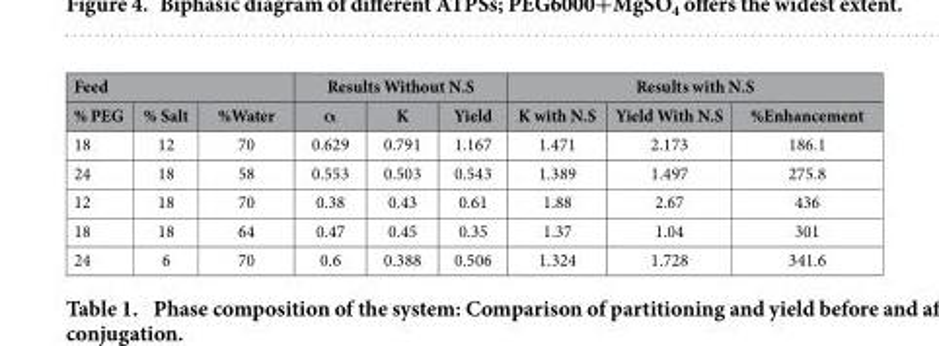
<table><thead><tr><td colspan="3">Feed</td><td colspan="3">Results Without N.S</td><td colspan="3">Results with N.S</td></tr><tr><td>% PEG</td><td>% Salt</td><td>%Water</td><td>α</td><td>K</td><td>Yield</td><td>K with N.S</td><td>Yield With N.S</td><td>%Enhancement</td></tr></thead><tbody><tr><td>18</td><td>12</td><td>70</td><td>0.629</td><td>0.791</td><td>1.167</td><td>1.471</td><td>2.173</td><td>186.1</td></tr><tr><td>24</td><td>18</td><td>58</td><td>0.553</td><td>0.503</td><td>0.543</td><td>1.389</td><td>1.497</td><td>275.8</td></tr><tr><td>12</td><td>18</td><td>70</td><td>0.38</td><td>0.43</td><td>0.61</td><td>1.88</td><td>2.67</td><td>436</td></tr><tr><td>18</td><td>18</td><td>64</td><td>0.47</td><td>0.45</td><td>0.35</td><td>1.37</td><td>1.04</td><td>301</td></tr><tr><td>24</td><td>6</td><td>70</td><td>0.6</td><td>0.388</td><td>0.506</td><td>1.324</td><td>1.728</td><td>341.6</td></tr></tbody></table>